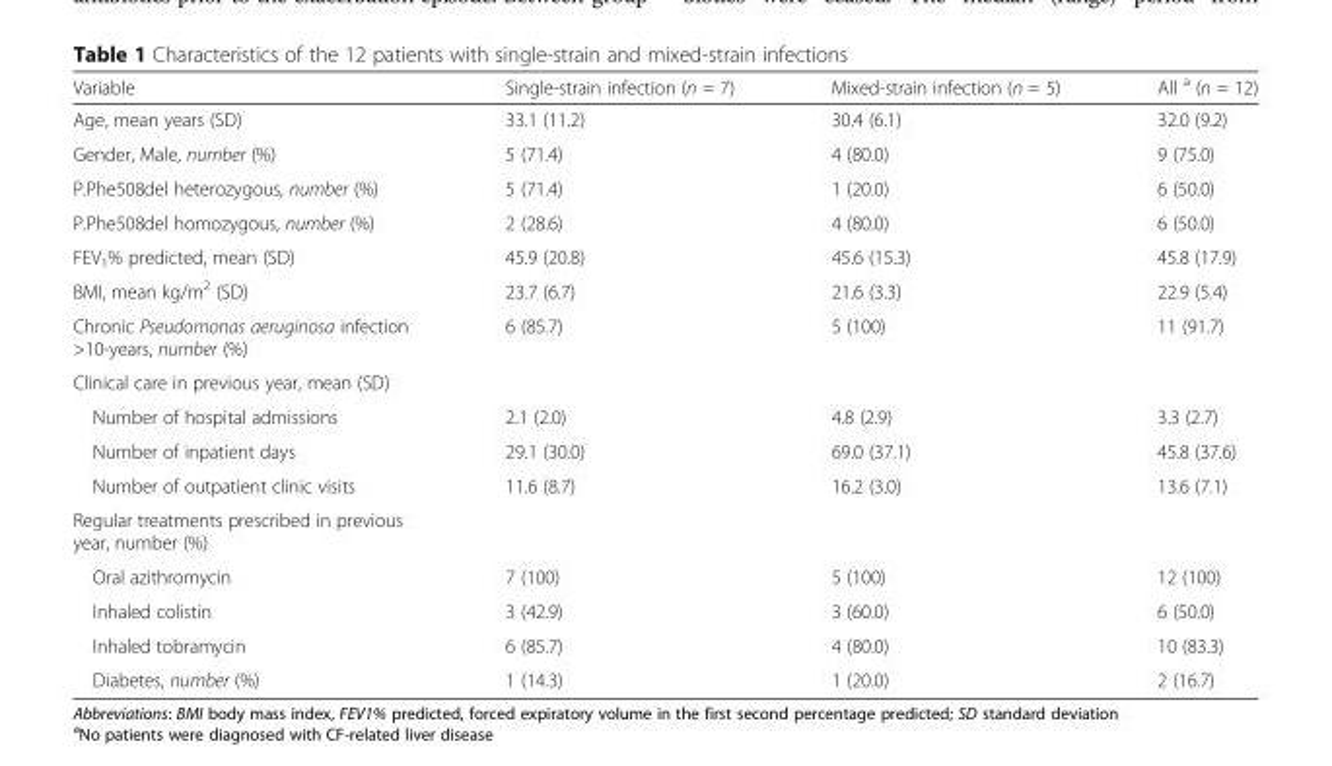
<table><thead><tr><td>Variable</td><td>Single-strain infection (n = 7)</td><td>Mixed-strain infection (n = 5)</td><td>All <sup>a</sup> (n = 12)</td></tr></thead><tbody><tr><td>Age, mean years (SD)</td><td>33.1 (11.2)</td><td>30.4 (6.1)</td><td>32.0 (9.2)</td></tr><tr><td>Gender, Male, number (%)</td><td>5 (71.4)</td><td>4 (80.0)</td><td>9 (75.0)</td></tr><tr><td>P.Phe508del heterozygous, number (%)</td><td>5 (71.4)</td><td>1 (20.0)</td><td>6 (50.0)</td></tr><tr><td>P.Phe508del homozygous, number (%)</td><td>2 (28.6)</td><td>4 (80.0)</td><td>6 (50.0)</td></tr><tr><td>FEV<sub>1</sub>% predicted, mean (SD)</td><td>45.9 (20.8)</td><td>45.6 (15.3)</td><td>45.8 (17.9)</td></tr><tr><td>BMI, mean kg/m<sup>2</sup> (SD)</td><td>23.7 (6.7)</td><td>21.6 (3.3)</td><td>22.9 (5.4)</td></tr><tr><td>Chronic Pseudomonas aeruginosa infection &gt;10-years, number (%)</td><td>6 (85.7)</td><td>5 (100)</td><td>11 (91.7)</td></tr><tr><td colspan="4">Clinical care in previous year, mean (SD)</td></tr><tr><td>Number of hospital admissions</td><td>2.1 (2.0)</td><td>4.8 (2.9)</td><td>3.3 (2.7)</td></tr><tr><td>Number of inpatient days</td><td>29.1 (30.0)</td><td>69.0 (37.1)</td><td>45.8 (37.6)</td></tr><tr><td>Number of outpatient clinic visits</td><td>11.6 (8.7)</td><td>16.2 (3.0)</td><td>13.6 (7.1)</td></tr><tr><td colspan="4">Regular treatments prescribed in previous year, number (%)</td></tr><tr><td>Oral azithromycin</td><td>7 (100)</td><td>5 (100)</td><td>12 (100)</td></tr><tr><td>Inhaled colistin</td><td>3 (42.9)</td><td>3 (60.0)</td><td>6 (50.0)</td></tr><tr><td>Inhaled tobramycin</td><td>6 (85.7)</td><td>4 (80.0)</td><td>10 (83.3)</td></tr><tr><td>Diabetes, number (%)</td><td>1 (14.3)</td><td>1 (20.0)</td><td>2 (16.7)</td></tr></tbody></table>